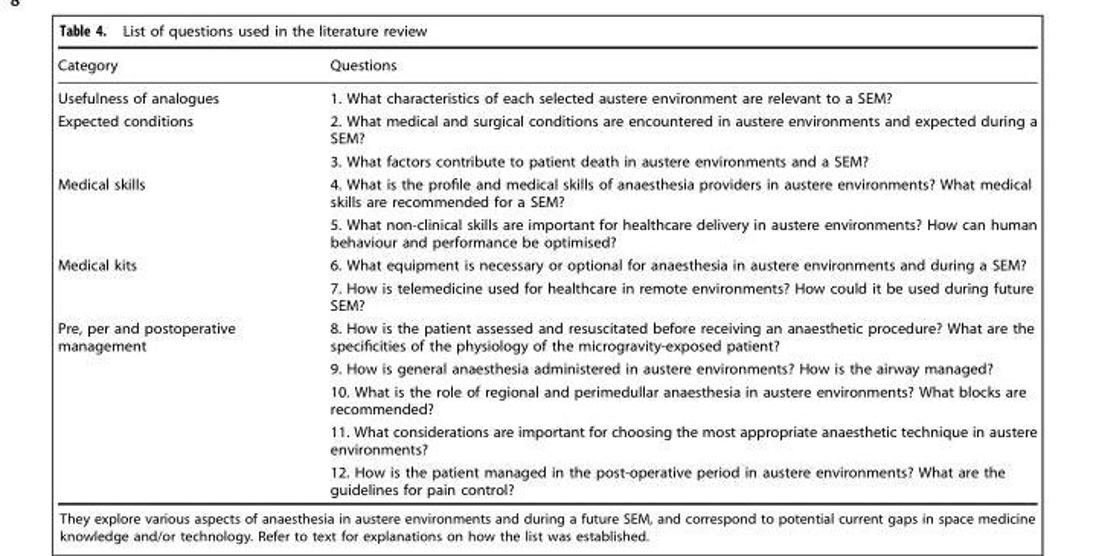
<table><thead><tr><td>Category</td><td>Questions</td></tr></thead><tbody><tr><td>Usefulness of analogues</td><td>1. What characteristics of each selected austere environment are relevant to a SEM?</td></tr><tr><td rowspan="2">Expected conditions</td><td>2. What medical and surgical conditions are encountered in austere environments and expected during a SEM?</td></tr><tr><td>3. What factors contribute to patient death in austere environments and a SEM?</td></tr><tr><td rowspan="2">Medical skills</td><td>4. What is the profile and medical skills of anaesthesia providers in austere environments? What medical skills are recommended for a SEM?</td></tr><tr><td>5. What non-clinical skills are important for healthcare delivery in austere environments? How can human behaviour and performance be optimised?</td></tr><tr><td rowspan="2">Medical kits</td><td>6. What equipment is necessary or optional for anaesthesia in austere environments and during a SEM?</td></tr><tr><td>7. How is telemedicine used for healthcare in remote environments? How could it be used during future SEM?</td></tr><tr><td rowspan="5">Pre, per and postoperative management</td><td>8. How is the patient assessed and resuscitated before receiving an anaesthetic procedure? What are the specificities of the physiology of the microgravity-exposed patient?</td></tr><tr><td>9. How is general anaesthesia administered in austere environments? How is the airway managed?</td></tr><tr><td>10. What is the role of regional and perimedullar anaesthesia in austere environments? What blocks are recommended?</td></tr><tr><td>11. What considerations are important for choosing the most appropriate anaesthetic technique in austere environments?</td></tr><tr><td>12. How is the patient managed in the post-operative period in austere environments? What are the guidelines for pain control?</td></tr></tbody></table>